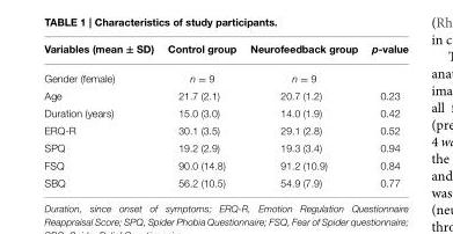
<table><thead><tr><td>Variables (mean ± SD)</td><td>Control group</td><td>Neurofeedback group</td><td>p-value</td></tr></thead><tbody><tr><td>Gender (female)</td><td>n = 9</td><td>n = 9</td><td></td></tr><tr><td>Age</td><td>21.7 (2.1)</td><td>20.7 (1.2)</td><td>0.23</td></tr><tr><td>Duration (years)</td><td>15.0 (3.0)</td><td>14.0 (1.9)</td><td>0.42</td></tr><tr><td>ERQ-R</td><td>30.1 (3.5)</td><td>29.1 (2.8)</td><td>0.52</td></tr><tr><td>SPQ</td><td>19.2 (2.9)</td><td>19.3 (3.4)</td><td>0.94</td></tr><tr><td>FSQ</td><td>90.0 (14.8)</td><td>91.2 (10.9)</td><td>0.84</td></tr><tr><td>SBQ</td><td>56.2 (10.5)</td><td>54.9 (7.9)</td><td>0.77</td></tr></tbody></table>